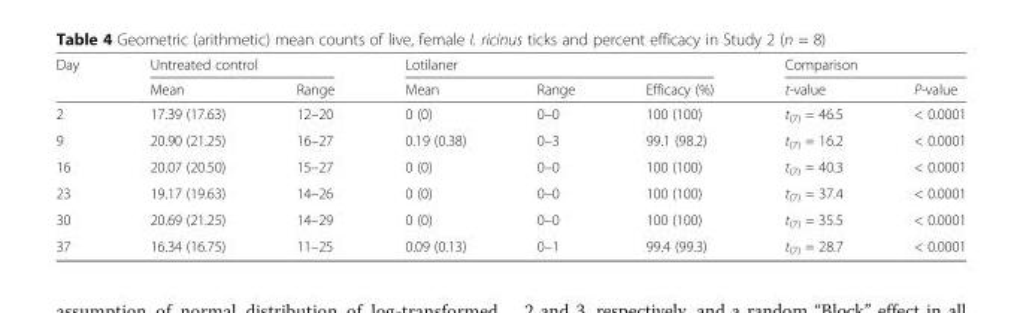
<table><thead><tr><td rowspan="2">Day</td><td colspan="2">Untreated control</td><td colspan="3">Lotilaner</td><td colspan="2">Comparison</td></tr><tr><td>Mean</td><td>Range</td><td>Mean</td><td>Range</td><td>Efficacy (%)</td><td>t-value</td><td>P-value</td></tr></thead><tbody><tr><td>2</td><td>17.39 (17.63)</td><td>12–20</td><td>0 (0)</td><td>0–0</td><td>100 (100)</td><td>t<sub>(7)</sub> = 46.5</td><td>&lt; 0.0001</td></tr><tr><td>9</td><td>20.90 (21.25)</td><td>16–27</td><td>0.19 (0.38)</td><td>0–3</td><td>99.1 (98.2)</td><td>t<sub>(7)</sub> = 16.2</td><td>&lt; 0.0001</td></tr><tr><td>16</td><td>20.07 (20.50)</td><td>15–27</td><td>0 (0)</td><td>0–0</td><td>100 (100)</td><td>t<sub>(7)</sub> = 40.3</td><td>&lt; 0.0001</td></tr><tr><td>23</td><td>19.17 (19.63)</td><td>14–26</td><td>0 (0)</td><td>0–0</td><td>100 (100)</td><td>t<sub>(7)</sub> = 37.4</td><td>&lt; 0.0001</td></tr><tr><td>30</td><td>20.69 (21.25)</td><td>14–29</td><td>0 (0)</td><td>0–0</td><td>100 (100)</td><td>t<sub>(7)</sub> = 35.5</td><td>&lt; 0.0001</td></tr><tr><td>37</td><td>16.34 (16.75)</td><td>11–25</td><td>0.09 (0.13)</td><td>0–1</td><td>99.4 (99.3)</td><td>t<sub>(7)</sub> = 28.7</td><td>&lt; 0.0001</td></tr></tbody></table>